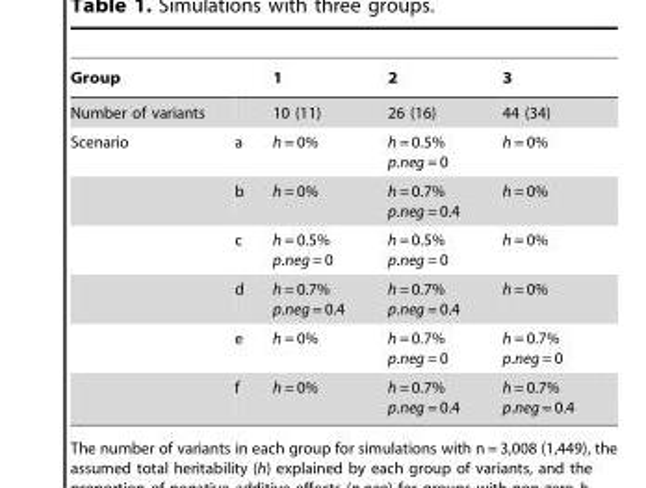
<table><thead><tr><td>Group</td><td></td><td>1</td><td>2</td><td>3</td></tr></thead><tbody><tr><td>Number of variants</td><td></td><td>10 (11)</td><td>26 (16)</td><td>44 (34)</td></tr><tr><td rowspan="6">Scenario</td><td>a</td><td>h = 0%</td><td>h = 0.5% p.neg = 0</td><td>h = 0%</td></tr><tr><td>b</td><td>h = 0%</td><td>h = 0.7% p.neg = 0.4</td><td>h = 0%</td></tr><tr><td>c</td><td>h = 0.5% p.neg = 0</td><td>h = 0.5% p.neg = 0</td><td>h = 0%</td></tr><tr><td>d</td><td>h = 0.7% p.neg = 0.4</td><td>h = 0.7% p.neg = 0.4</td><td>h = 0%</td></tr><tr><td>e</td><td>h = 0%</td><td>h = 0.7% p.neg = 0</td><td>h = 0.7% p.neg = 0</td></tr><tr><td>f</td><td>h = 0%</td><td>h = 0.7% p.neg = 0.4</td><td>h = 0.7% p.neg = 0.4</td></tr></tbody></table>